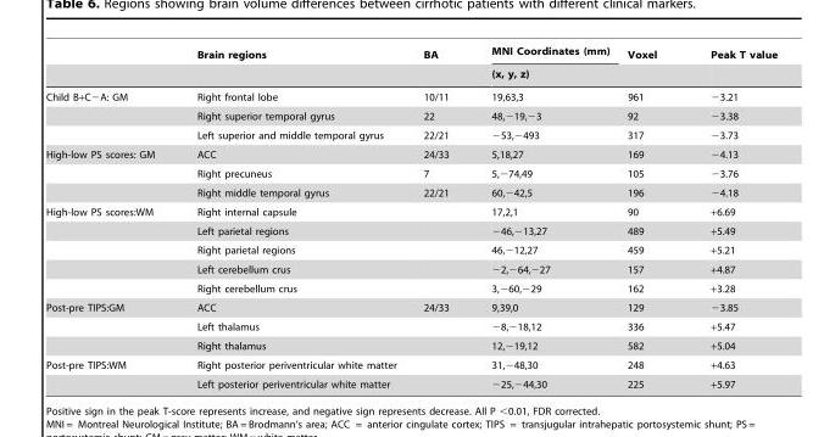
<table><thead><tr><td rowspan="2"></td><td rowspan="2">Brain regions</td><td rowspan="2">BA</td><td rowspan="2">MNI Coordinates (mm) (x, y, z)</td><td rowspan="2">Voxel</td><td rowspan="2">Peak T value</td></tr><tr></tr></thead><tbody><tr><td rowspan="3">Child B+C−A: GM</td><td>Right frontal lobe</td><td>10/11</td><td>19,63,3</td><td>961</td><td>−3.21</td></tr><tr><td>Right superior temporal gyrus</td><td>22</td><td>48,−19,−3</td><td>92</td><td>−3.38</td></tr><tr><td>Left superior and middle temporal gyrus</td><td>22/21</td><td>−53,−493</td><td>317</td><td>−3.73</td></tr><tr><td rowspan="3">High-low PS scores: GM</td><td>ACC</td><td>24/33</td><td>5,18,27</td><td>169</td><td>−4.13</td></tr><tr><td>Right precuneus</td><td>7</td><td>5,−74,49</td><td>105</td><td>−3.76</td></tr><tr><td>Right middle temporal gyrus</td><td>22/21</td><td>60,−42,5</td><td>196</td><td>−4.18</td></tr><tr><td rowspan="5">High-low PS scores:WM</td><td>Right internal capsule</td><td></td><td>17,2,1</td><td>90</td><td>+6.69</td></tr><tr><td>Left parietal regions</td><td></td><td>−46,−13,27</td><td>489</td><td>+5.49</td></tr><tr><td>Right parietal regions</td><td></td><td>46,−12,27</td><td>459</td><td>+5.21</td></tr><tr><td>Left cerebellum crus</td><td></td><td>−2,−64,−27</td><td>157</td><td>+4.87</td></tr><tr><td>Right cerebellum crus</td><td></td><td>3,−60,−29</td><td>162</td><td>+3.28</td></tr><tr><td rowspan="3">Post-pre TIPS:GM</td><td>ACC</td><td>24/33</td><td>9,39,0</td><td>129</td><td>−3.85</td></tr><tr><td>Left thalamus</td><td></td><td>−8,−18,12</td><td>336</td><td>+5.47</td></tr><tr><td>Right thalamus</td><td></td><td>12,−19,12</td><td>582</td><td>+5.04</td></tr><tr><td rowspan="2">Post-pre TIPS:WM</td><td>Right posterior periventricular white matter</td><td></td><td>31,−48,30</td><td>248</td><td>+4.63</td></tr><tr><td>Left posterior periventricular white matter</td><td></td><td>−25,−44,30</td><td>225</td><td>+5.97</td></tr></tbody></table>